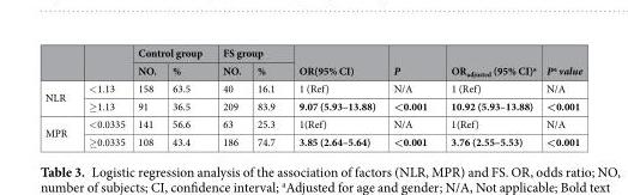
<table><thead><tr><td rowspan="2"></td><td rowspan="2"></td><td colspan="2">Control group</td><td colspan="2">FS group</td><td rowspan="2">OR(95% CI)</td><td rowspan="2">P</td><td rowspan="2">OR<sub>adjusted</sub> (95% CI)<sup>a</sup></td><td rowspan="2">P <sup>a</sup> value</td></tr><tr><td>NO.</td><td>%</td><td>NO.</td><td>%</td></tr></thead><tbody><tr><td rowspan="2">NLR</td><td>&lt;1.13</td><td>158</td><td>63.5</td><td>40</td><td>16.1</td><td>1 (Ref)</td><td>N/A</td><td>1 (Ref)</td><td>N/A</td></tr><tr><td>≥1.13</td><td>91</td><td>36.5</td><td>209</td><td>83.9</td><td>9.07 (5.93–13.88)</td><td>&lt;0.001</td><td>10.92 (5.93–13.88)</td><td>&lt;0.001</td></tr><tr><td rowspan="2">MPR</td><td>&lt;0.0335</td><td>141</td><td>56.6</td><td>63</td><td>25.3</td><td>1(Ref)</td><td>N/A</td><td>1(Ref)</td><td>N/A</td></tr><tr><td>≥0.0335</td><td>108</td><td>43.4</td><td>186</td><td>74.7</td><td>3.85 (2.64–5.64)</td><td>&lt;0.001</td><td>3.76 (2.55–5.53)</td><td>&lt;0.001</td></tr></tbody></table>